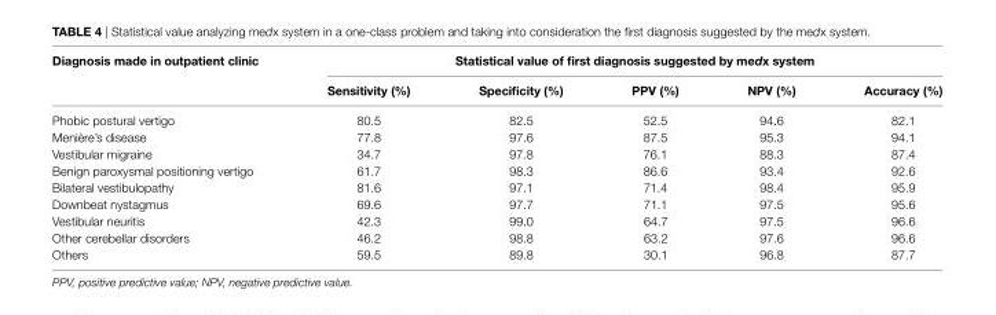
<table><thead><tr><td rowspan="2">Diagnosis made in outpatient clinic</td><td colspan="5">statistical value of first diagnosis suggested by medx system</td></tr><tr><td>sensitivity (%)</td><td>specificity (%)</td><td>PPV (%)</td><td>nPV (%)</td><td>accuracy (%)</td></tr></thead><tbody><tr><td>Phobic postural vertigo</td><td>80.5</td><td>82.5</td><td>52.5</td><td>94.6</td><td>82.1</td></tr><tr><td>Menière’s disease</td><td>77.8</td><td>97.6</td><td>87.5</td><td>95.3</td><td>94.1</td></tr><tr><td>Vestibular migraine</td><td>34.7</td><td>97.8</td><td>76.1</td><td>88.3</td><td>87.4</td></tr><tr><td>Benign paroxysmal positioning vertigo</td><td>61.7</td><td>98.3</td><td>86.6</td><td>93.4</td><td>92.6</td></tr><tr><td>Bilateral vestibulopathy</td><td>81.6</td><td>97.1</td><td>71.4</td><td>98.4</td><td>95.9</td></tr><tr><td>Downbeat nystagmus</td><td>69.6</td><td>97.7</td><td>71.1</td><td>97.5</td><td>95.6</td></tr><tr><td>Vestibular neuritis</td><td>42.3</td><td>99.0</td><td>64.7</td><td>97.5</td><td>96.6</td></tr><tr><td>Other cerebellar disorders</td><td>46.2</td><td>98.8</td><td>63.2</td><td>97.6</td><td>96.6</td></tr><tr><td>Others</td><td>59.5</td><td>89.8</td><td>30.1</td><td>96.8</td><td>87.7</td></tr></tbody></table>